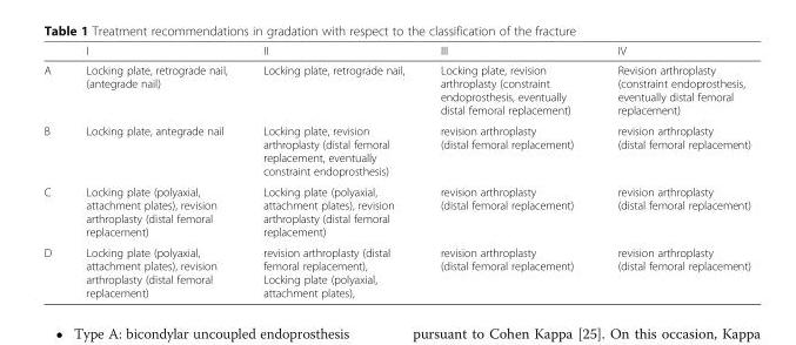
<table><thead><tr><td></td><td>I</td><td>II</td><td>III</td><td>IV</td></tr></thead><tbody><tr><td>A</td><td>Locking plate, retrograde nail, (antegrade nail)</td><td>Locking plate, retrograde nail,</td><td>Locking plate, revision arthroplasty (constraint endoprosthesis, eventually distal femoral replacement)</td><td>Revision arthroplasty (constraint endoprosthesis, eventually distal femoral replacement)</td></tr><tr><td>B</td><td>Locking plate, antegrade nail</td><td>Locking plate, revision arthroplasty (distal femoral replacement, eventually constraint endoprosthesis)</td><td>revision arthroplasty (distal femoral replacement)</td><td>revision arthroplasty (distal femoral replacement)</td></tr><tr><td>C</td><td>Locking plate (polyaxial, attachment plates), revision arthroplasty (distal femoral replacement)</td><td>Locking plate (polyaxial, attachment plates), revision arthroplasty (distal femoral replacement)</td><td>revision arthroplasty (distal femoral replacement)</td><td>revision arthroplasty (distal femoral replacement)</td></tr><tr><td>D</td><td>Locking plate (polyaxial, attachment plates), revision arthroplasty (distal femoral replacement)</td><td>revision arthroplasty (distal femoral replacement), Locking plate (polyaxial, attachment plates),</td><td>revision arthroplasty (distal femoral replacement)</td><td>revision arthroplasty (distal femoral replacement)</td></tr></tbody></table>